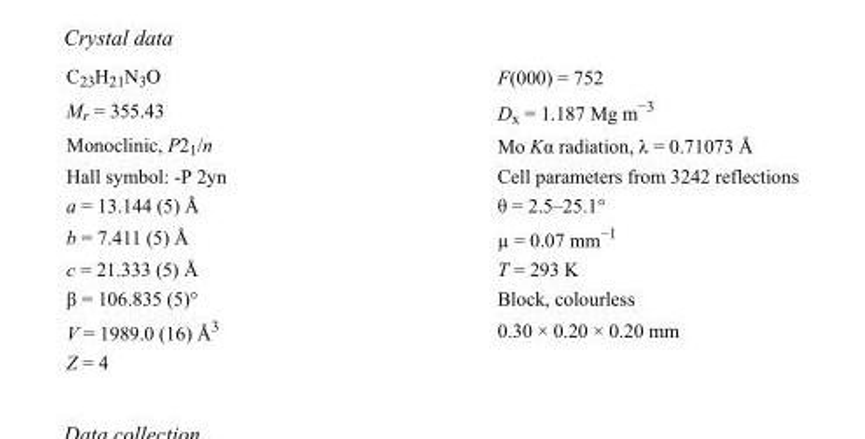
<table><tbody><tr><td>C<sub>23</sub>H<sub>21</sub>N<sub>3</sub>O</td><td>F(000) = 752</td></tr><tr><td>M<sub>r</sub> = 355.43</td><td>D<sub>x</sub> = 1.187 Mg m<sup>−3</sup></td></tr><tr><td>Monoclinic, P2<sub>1</sub>/n</td><td>Mo Kα radiation, λ = 0.71073 Å</td></tr><tr><td>Hall symbol: -P 2yn</td><td>Cell parameters from 3242 reflections</td></tr><tr><td>a = 13.144 (5) Å</td><td>θ = 2.5–25.1°</td></tr><tr><td>b = 7.411 (5) Å</td><td>µ = 0.07 mm<sup>−1</sup></td></tr><tr><td>c = 21.333 (5) Å</td><td>T = 293 K</td></tr><tr><td>β = 106.835 (5)°</td><td>Block, colourless</td></tr><tr><td>V = 1989.0 (16) Å<sup>3</sup></td><td>0.30 × 0.20 × 0.20 mm</td></tr><tr><td>Z = 4</td><td></td></tr></tbody></table>